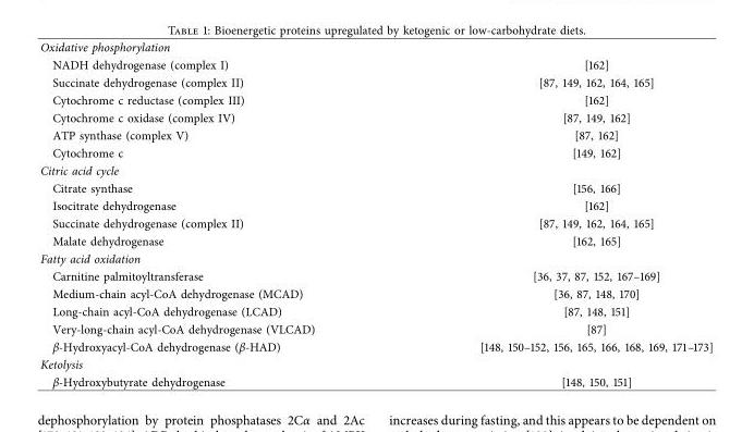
<table><tbody><tr><td colspan="2">Oxidative phosphorylation</td></tr><tr><td>NADH dehydrogenase (complex I)</td><td>[162]</td></tr><tr><td>Succinate dehydrogenase (complex II)</td><td>[87, 149, 162, 164, 165]</td></tr><tr><td>Cytochrome c reductase (complex III)</td><td>[162]</td></tr><tr><td>Cytochrome c oxidase (complex IV)</td><td>[87, 149, 162]</td></tr><tr><td>ATP synthase (complex V)</td><td>[87, 162]</td></tr><tr><td>Cytochrome c</td><td>[149, 162]</td></tr><tr><td colspan="2">Citric acid cycle</td></tr><tr><td>Citrate synthase</td><td>[156, 166]</td></tr><tr><td>Isocitrate dehydrogenase</td><td>[162]</td></tr><tr><td>Succinate dehydrogenase (complex II)</td><td>[87, 149, 162, 164, 165]</td></tr><tr><td>Malate dehydrogenase</td><td>[162, 165]</td></tr><tr><td colspan="2">Fatty acid oxidation</td></tr><tr><td>Carnitine palmitoyltransferase</td><td>[36, 37, 87, 152, 167–169]</td></tr><tr><td>Medium-chain acyl-CoA dehydrogenase (MCAD)</td><td>[36, 87, 148, 170]</td></tr><tr><td>Long-chain acyl-CoA dehydrogenase (LCAD)</td><td>[87, 148, 151]</td></tr><tr><td>Very-long-chain acyl-CoA dehydrogenase (VLCAD)</td><td>[87]</td></tr><tr><td>β-Hydroxyacyl-CoA dehydrogenase (β-HAD)</td><td>[148, 150–152, 156, 165, 166, 168, 169, 171–173]</td></tr><tr><td colspan="2">Ketolysis</td></tr><tr><td>β-Hydroxybutyrate dehydrogenase</td><td>[148, 150, 151]</td></tr></tbody></table>